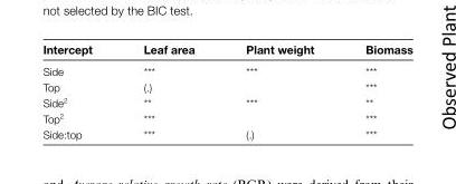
<table><thead><tr><td>Intercept</td><td>Leaf area</td><td>Plant weight</td><td>Biomass</td></tr></thead><tbody><tr><td>Side</td><td>***</td><td>***</td><td>***</td></tr><tr><td>Top</td><td>(.)</td><td></td><td>***</td></tr><tr><td>Side<sup>2</sup></td><td>**</td><td>***</td><td>**</td></tr><tr><td>Top<sup>2</sup></td><td>***</td><td></td><td>***</td></tr><tr><td>Side:top</td><td>***</td><td>(.)</td><td>***</td></tr></tbody></table>